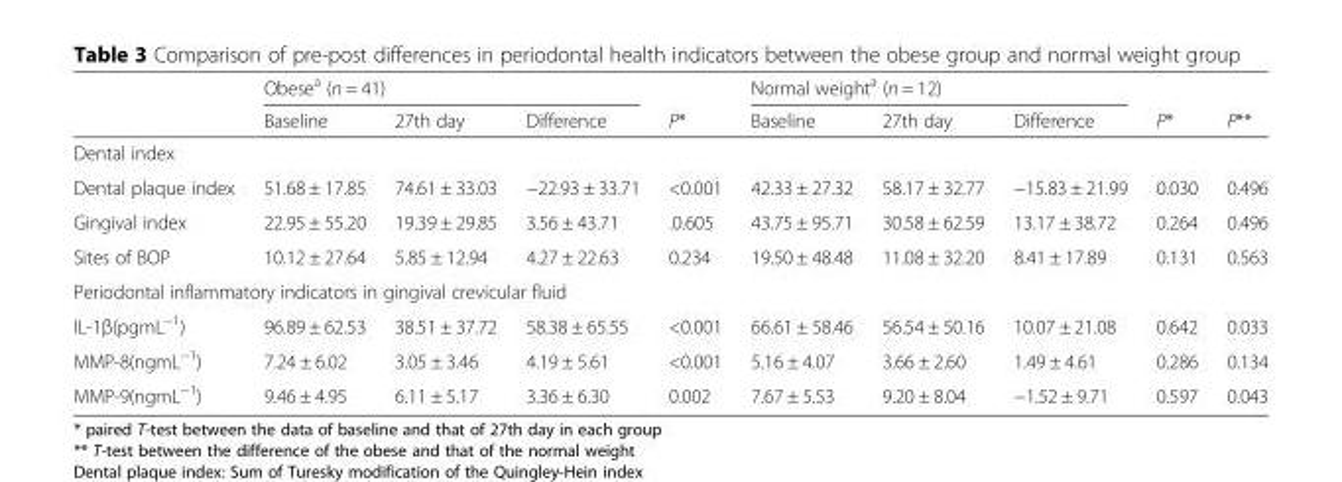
<table><thead><tr><td rowspan="2"></td><td colspan="3">Obese<sup>a</sup> (n = 41)</td><td rowspan="2">P*</td><td colspan="3">Normal weight<sup>a</sup> (n = 12)</td><td rowspan="2">P*</td><td rowspan="2">P**</td></tr><tr><td>Baseline</td><td>27th day</td><td>Difference</td><td>Baseline</td><td>27th day</td><td>Difference</td></tr></thead><tbody><tr><td colspan="10">Dental index</td></tr><tr><td>Dental plaque index</td><td>51.68 ± 17.85</td><td>74.61 ± 33.03</td><td>−22.93 ± 33.71</td><td>&lt;0.001</td><td>42.33 ± 27.32</td><td>58.17 ± 32.77</td><td>−15.83 ± 21.99</td><td>0.030</td><td>0.496</td></tr><tr><td>Gingival index</td><td>22.95 ± 55.20</td><td>19.39 ± 29.85</td><td>3.56 ± 43.71</td><td>.0.605</td><td>43.75 ± 95.71</td><td>30.58 ± 62.59</td><td>13.17 ± 38.72</td><td>0.264</td><td>0.496</td></tr><tr><td>Sites of BOP</td><td>10.12 ± 27.64</td><td>5.85 ± 12.94</td><td>4.27 ± 22.63</td><td>0.234</td><td>19.50 ± 48.48</td><td>11.08 ± 32.20</td><td>8.41 ± 17.89</td><td>0.131</td><td>0.563</td></tr><tr><td colspan="10">Periodontal inflammatory indicators in gingival crevicular fluid</td></tr><tr><td>IL-1β(pgmL<sup>−1</sup>)</td><td>96.89 ± 62.53</td><td>38.51 ± 37.72</td><td>58.38 ± 65.55</td><td>&lt;0.001</td><td>66.61 ± 58.46</td><td>56.54 ± 50.16</td><td>10.07 ± 21.08</td><td>0.642</td><td>0.033</td></tr><tr><td>MMP-8(ngmL<sup>−1</sup>)</td><td>7.24 ± 6.02</td><td>3.05 ± 3.46</td><td>4.19 ± 5.61</td><td>&lt;0.001</td><td>5.16 ± 4.07</td><td>3.66 ± 2.60</td><td>1.49 ± 4.61</td><td>0.286</td><td>0.134</td></tr><tr><td>MMP-9(ngmL<sup>−1</sup>)</td><td>9.46 ± 4.95</td><td>6.11 ± 5.17</td><td>3.36 ± 6.30</td><td>0.002</td><td>7.67 ± 5.53</td><td>9.20 ± 8.04</td><td>−1.52 ± 9.71</td><td>0.597</td><td>0.043</td></tr></tbody></table>